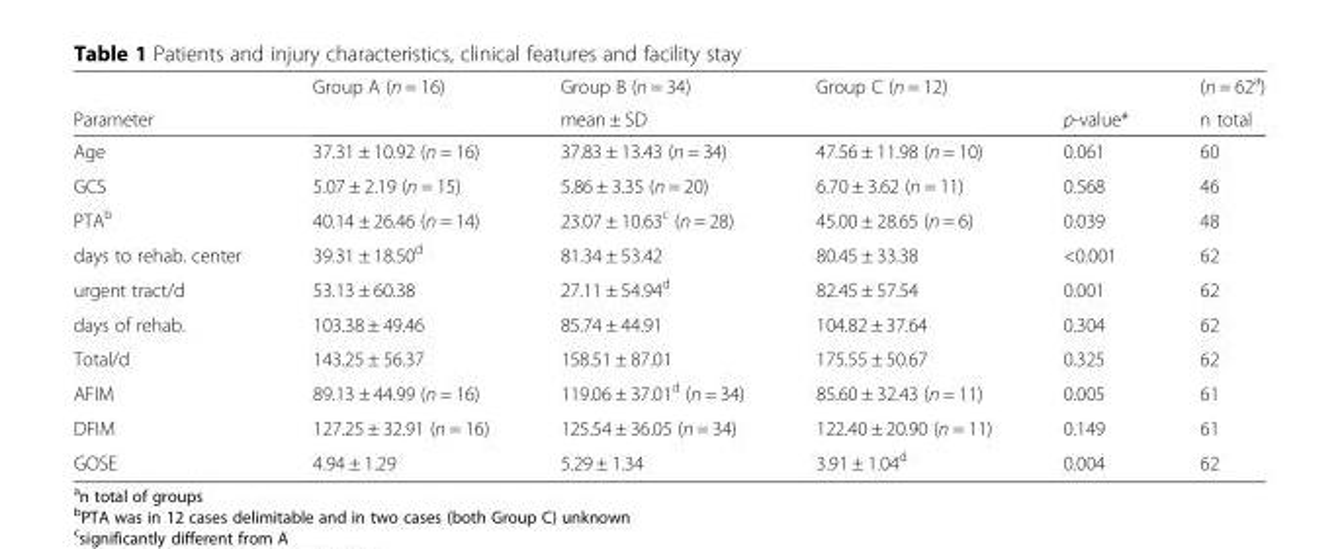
<table><thead><tr><td rowspan="2">Parameter</td><td rowspan="2">Group A (n = 16)</td><td rowspan="2">Group B (n = 34) mean ± SD</td><td rowspan="2">Group C (n = 12)</td><td rowspan="2">p-value*</td><td rowspan="2">(n = 62<sup>a</sup>) n total</td></tr><tr></tr></thead><tbody><tr><td>Age</td><td>37.31 ± 10.92 (n = 16)</td><td>37.83 ± 13.43 (n = 34)</td><td>47.56 ± 11.98 (n = 10)</td><td>0.061</td><td>60</td></tr><tr><td>GCS</td><td>5.07 ± 2.19 (n = 15)</td><td>5.86 ± 3.35 (n = 20)</td><td>6.70 ± 3.62 (n = 11)</td><td>0.568</td><td>46</td></tr><tr><td>PTA<sup>b</sup></td><td>40.14 ± 26.46 (n = 14)</td><td>23.07 ± 10.63<sup>c</sup> (n = 28)</td><td>45.00 ± 28.65 (n = 6)</td><td>0.039</td><td>48</td></tr><tr><td>days to rehab. center</td><td>39.31 ± 18.50<sup>d</sup></td><td>81.34 ± 53.42</td><td>80.45 ± 33.38</td><td>&lt;0.001</td><td>62</td></tr><tr><td>urgent tract/d</td><td>53.13 ± 60.38</td><td>27.11 ± 54.94<sup>d</sup></td><td>82.45 ± 57.54</td><td>0.001</td><td>62</td></tr><tr><td>days of rehab.</td><td>103.38 ± 49.46</td><td>85.74 ± 44.91</td><td>104.82 ± 37.64</td><td>0.304</td><td>62</td></tr><tr><td>Total/d</td><td>143.25 ± 56.37</td><td>158.51 ± 87.01</td><td>175.55 ± 50.67</td><td>0.325</td><td>62</td></tr><tr><td>AFIM</td><td>89.13 ± 44.99 (n = 16)</td><td>119.06 ± 37.01<sup>d</sup> (n = 34)</td><td>85.60 ± 32.43 (n = 11)</td><td>0.005</td><td>61</td></tr><tr><td>DFIM</td><td>127.25 ± 32.91 (n = 16)</td><td>125.54 ± 36.05 (n = 34)</td><td>122.40 ± 20.90 (n = 11)</td><td>0.149</td><td>61</td></tr><tr><td>GOSE</td><td>4.94 ± 1.29</td><td>5.29 ± 1.34</td><td>3.91 ± 1.04<sup>d</sup></td><td>0.004</td><td>62</td></tr></tbody></table>